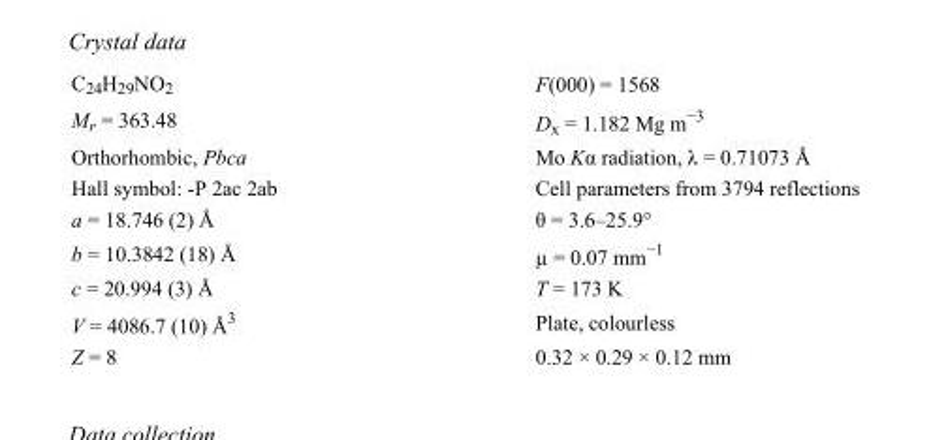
<table><tbody><tr><td>C<sub>24</sub>H<sub>29</sub>NO<sub>2</sub></td><td>F(000) = 1568</td></tr><tr><td>M<sub>r</sub> = 363.48</td><td>D<sub>x</sub> = 1.182 Mg m<sup>−3</sup></td></tr><tr><td>Orthorhombic, Pbca</td><td>Mo Kα radiation, λ = 0.71073 Å</td></tr><tr><td>Hall symbol: -P 2ac 2ab</td><td>Cell parameters from 3794 reflections</td></tr><tr><td>a = 18.746 (2) Å</td><td>θ = 3.6–25.9°</td></tr><tr><td>b = 10.3842 (18) Å</td><td>µ = 0.07 mm<sup>−1</sup></td></tr><tr><td>c = 20.994 (3) Å</td><td>T = 173 K</td></tr><tr><td>V = 4086.7 (10) Å<sup>3</sup></td><td>Plate, colourless</td></tr><tr><td>Z = 8</td><td>0.32 × 0.29 × 0.12 mm</td></tr></tbody></table>